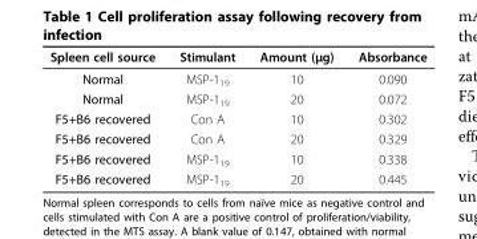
<table><thead><tr><td>Spleen cell source</td><td>Stimulant</td><td>Amount (μg)</td><td>Absorbance</td></tr></thead><tbody><tr><td>Normal</td><td>MSP-1<sub>19</sub></td><td>10</td><td>0.090</td></tr><tr><td>Normal</td><td>MSP-1<sub>19</sub></td><td>20</td><td>0.072</td></tr><tr><td>F5+B6 recovered</td><td>Con A</td><td>10</td><td>0.302</td></tr><tr><td>F5+B6 recovered</td><td>Con A</td><td>20</td><td>0.329</td></tr><tr><td>F5+B6 recovered</td><td>MSP-1<sub>19</sub></td><td>10</td><td>0.338</td></tr><tr><td>F5+B6 recovered</td><td>MSP-1<sub>19</sub></td><td>20</td><td>0.445</td></tr></tbody></table>